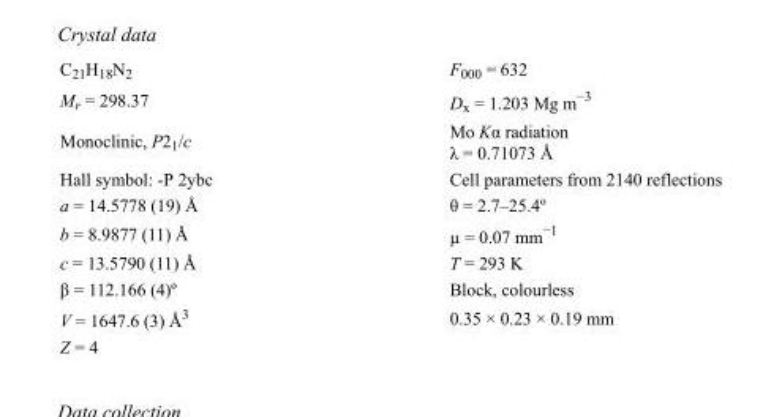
<table><tbody><tr><td>C<sub>21</sub>H<sub>18</sub>N<sub>2</sub></td><td>F000 = 632</td></tr><tr><td>M<sub>r</sub> = 298.37</td><td>D<sub>x</sub> = 1.203 Mg m<sup>−3</sup></td></tr><tr><td>Monoclinic, P2<sub>1</sub>/c</td><td>Mo Kα radiation λ = 0.71073 Å</td></tr><tr><td>Hall symbol: -P 2ybc</td><td>Cell parameters from 2140 reflections</td></tr><tr><td>a = 14.5778 (19) Å</td><td>θ = 2.7–25.4º</td></tr><tr><td>b = 8.9877 (11) Å</td><td>µ = 0.07 mm<sup>−1</sup></td></tr><tr><td>c = 13.5790 (11) Å</td><td>T = 293 K</td></tr><tr><td>β = 112.166 (4)º</td><td>Block, colourless</td></tr><tr><td>V = 1647.6 (3) Å<sup>3</sup></td><td>0.35 × 0.23 × 0.19 mm</td></tr><tr><td>Z = 4</td><td></td></tr></tbody></table>